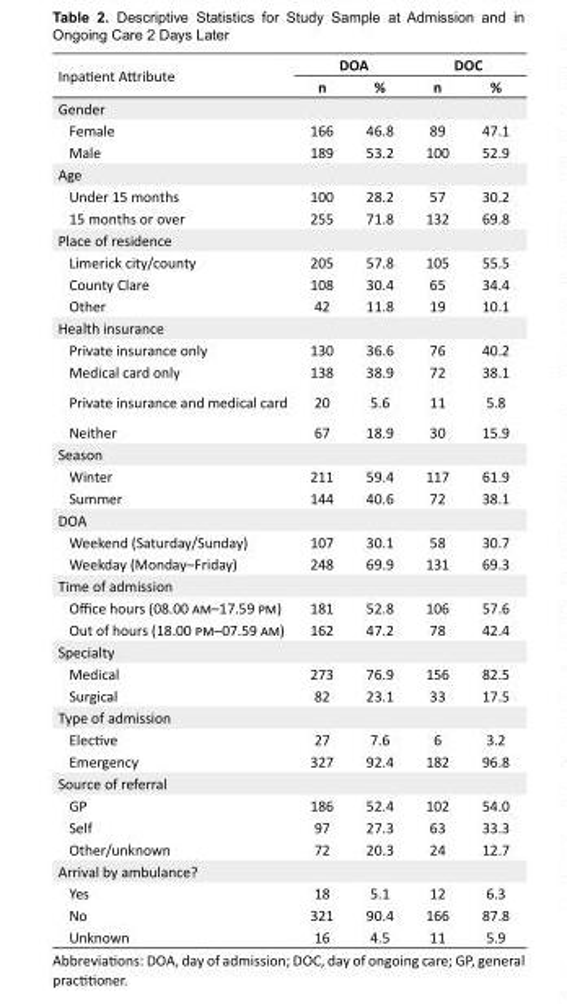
<table><tbody><tr><td rowspan="2">Inpatient Attribute</td><td colspan="2">DOA</td><td colspan="2">DOC</td></tr><tr><td>n</td><td>%</td><td>n</td><td>%</td></tr><tr><td colspan="5">Gender</td></tr><tr><td>Female</td><td>166</td><td>46.8</td><td>89</td><td>47.1</td></tr><tr><td>Male</td><td>189</td><td>53.2</td><td>100</td><td>52.9</td></tr><tr><td colspan="5">Age</td></tr><tr><td>Under 15 months</td><td>100</td><td>28.2</td><td>57</td><td>30.2</td></tr><tr><td>15 months or over</td><td>255</td><td>71.8</td><td>132</td><td>69.8</td></tr><tr><td colspan="5">Place of residence</td></tr><tr><td>Limerick city/county</td><td>205</td><td>57.8</td><td>105</td><td>55.5</td></tr><tr><td>County Clare</td><td>108</td><td>30.4</td><td>65</td><td>34.4</td></tr><tr><td>Other</td><td>42</td><td>11.8</td><td>19</td><td>10.1</td></tr><tr><td colspan="5">Health insurance</td></tr><tr><td>Private insurance only</td><td>130</td><td>36.6</td><td>76</td><td>40.2</td></tr><tr><td>Medical card only</td><td>138</td><td>38.9</td><td>72</td><td>38.1</td></tr><tr><td>Private insurance and medical card</td><td>20</td><td>5.6</td><td>11</td><td>5.8</td></tr><tr><td>Neither</td><td>67</td><td>18.9</td><td>30</td><td>15.9</td></tr><tr><td colspan="5">Season</td></tr><tr><td>Winter</td><td>211</td><td>59.4</td><td>117</td><td>61.9</td></tr><tr><td>Summer</td><td>144</td><td>40.6</td><td>72</td><td>38.1</td></tr><tr><td colspan="5">DOA</td></tr><tr><td>Weekend (Saturday/Sunday)</td><td>107</td><td>30.1</td><td>58</td><td>30.7</td></tr><tr><td>Weekday (Monday–Friday)</td><td>248</td><td>69.9</td><td>131</td><td>69.3</td></tr><tr><td colspan="5">Time of admission</td></tr><tr><td>Office hours (08.00 am–17.59 pm)</td><td>181</td><td>52.8</td><td>106</td><td>57.6</td></tr><tr><td>Out of hours (18.00 pm–07.59 am)</td><td>162</td><td>47.2</td><td>78</td><td>42.4</td></tr><tr><td colspan="5">Specialty</td></tr><tr><td>Medical</td><td>273</td><td>76.9</td><td>156</td><td>82.5</td></tr><tr><td>Surgical</td><td>82</td><td>23.1</td><td>33</td><td>17.5</td></tr><tr><td colspan="5">Type of admission</td></tr><tr><td>Elective</td><td>27</td><td>7.6</td><td>6</td><td>3.2</td></tr><tr><td>Emergency</td><td>327</td><td>92.4</td><td>182</td><td>96.8</td></tr><tr><td colspan="5">Source of referral</td></tr><tr><td>GP</td><td>186</td><td>52.4</td><td>102</td><td>54.0</td></tr><tr><td>Self</td><td>97</td><td>27.3</td><td>63</td><td>33.3</td></tr><tr><td>Other/unknown</td><td>72</td><td>20.3</td><td>24</td><td>12.7</td></tr><tr><td colspan="5">Arrival by ambulance?</td></tr><tr><td>Yes</td><td>18</td><td>5.1</td><td>12</td><td>6.3</td></tr><tr><td>No</td><td>321</td><td>90.4</td><td>166</td><td>87.8</td></tr><tr><td>Unknown</td><td>16</td><td>4.5</td><td>11</td><td>5.9</td></tr></tbody></table>